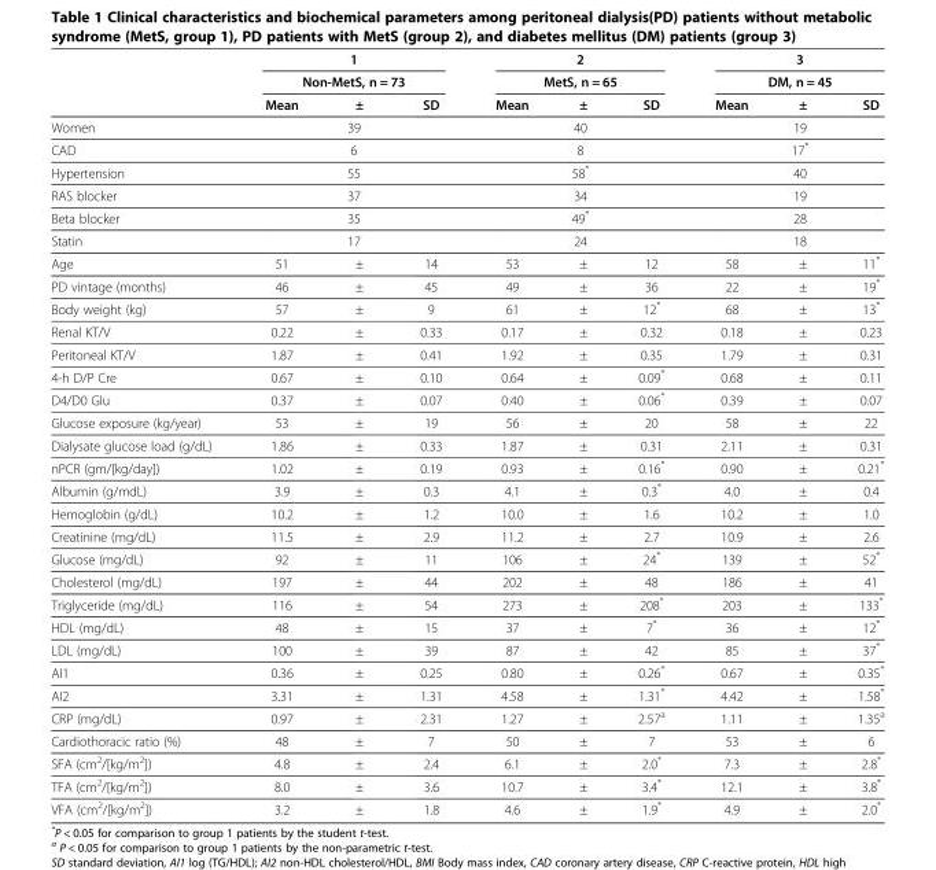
<table><thead><tr><td rowspan="3"></td><td rowspan="2" colspan="3">1 Non-MetS, n = 73</td><td rowspan="2" colspan="3">2 MetS, n = 65</td><td rowspan="2" colspan="3">3 DM, n = 45</td></tr><tr></tr><tr><td>Mean</td><td>±</td><td>SD</td><td>Mean</td><td>±</td><td>SD</td><td>Mean</td><td>±</td><td>SD</td></tr></thead><tbody><tr><td>Women</td><td colspan="3">39</td><td colspan="3">40</td><td colspan="3">19</td></tr><tr><td>CAD</td><td colspan="3">6</td><td colspan="3">8</td><td colspan="3">17*</td></tr><tr><td>Hypertension</td><td colspan="3">55</td><td colspan="3">58*</td><td colspan="3">40</td></tr><tr><td>RAS blocker</td><td colspan="3">37</td><td colspan="3">34</td><td colspan="3">19</td></tr><tr><td>Beta blocker</td><td colspan="3">35</td><td colspan="3">49*</td><td colspan="3">28</td></tr><tr><td>Statin</td><td colspan="3">17</td><td colspan="3">24</td><td colspan="3">18</td></tr><tr><td>Age</td><td>51</td><td>±</td><td>14</td><td>53</td><td>±</td><td>12</td><td>58</td><td>±</td><td>11*</td></tr><tr><td>PD vintage (months)</td><td>46</td><td>±</td><td>45</td><td>49</td><td>±</td><td>36</td><td>22</td><td>±</td><td>19*</td></tr><tr><td>Body weight (kg)</td><td>57</td><td>±</td><td>9</td><td>61</td><td>±</td><td>12*</td><td>68</td><td>±</td><td>13*</td></tr><tr><td>Renal KT/V</td><td>0.22</td><td>±</td><td>0.33</td><td>0.17</td><td>±</td><td>0.32</td><td>0.18</td><td>±</td><td>0.23</td></tr><tr><td>Peritoneal KT/V</td><td>1.87</td><td>±</td><td>0.41</td><td>1.92</td><td>±</td><td>0.35</td><td>1.79</td><td>±</td><td>0.31</td></tr><tr><td>4-h D/P Cre</td><td>0.67</td><td>±</td><td>0.10</td><td>0.64</td><td>±</td><td>0.09*</td><td>0.68</td><td>±</td><td>0.11</td></tr><tr><td>D4/D0 Glu</td><td>0.37</td><td>±</td><td>0.07</td><td>0.40</td><td>±</td><td>0.06*</td><td>0.39</td><td>±</td><td>0.07</td></tr><tr><td>Glucose exposure (kg/year)</td><td>53</td><td>±</td><td>19</td><td>56</td><td>±</td><td>20</td><td>58</td><td>±</td><td>22</td></tr><tr><td>Dialysate glucose load (g/dL)</td><td>1.86</td><td>±</td><td>0.33</td><td>1.87</td><td>±</td><td>0.31</td><td>2.11</td><td>±</td><td>0.31</td></tr><tr><td>nPCR (gm/[kg/day])</td><td>1.02</td><td>±</td><td>0.19</td><td>0.93</td><td>±</td><td>0.16*</td><td>0.90</td><td>±</td><td>0.21*</td></tr><tr><td>Albumin (g/mdL)</td><td>3.9</td><td>±</td><td>0.3</td><td>4.1</td><td>±</td><td>0.3*</td><td>4.0</td><td>±</td><td>0.4</td></tr><tr><td>Hemoglobin (g/dL)</td><td>10.2</td><td>±</td><td>1.2</td><td>10.0</td><td>±</td><td>1.6</td><td>10.2</td><td>±</td><td>1.0</td></tr><tr><td>Creatinine (mg/dL)</td><td>11.5</td><td>±</td><td>2.9</td><td>11.2</td><td>±</td><td>2.7</td><td>10.9</td><td>±</td><td>2.6</td></tr><tr><td>Glucose (mg/dL)</td><td>92</td><td>±</td><td>11</td><td>106</td><td>±</td><td>24*</td><td>139</td><td>±</td><td>52*</td></tr><tr><td>Cholesterol (mg/dL)</td><td>197</td><td>±</td><td>44</td><td>202</td><td>±</td><td>48</td><td>186</td><td>±</td><td>41</td></tr><tr><td>Triglyceride (mg/dL)</td><td>116</td><td>±</td><td>54</td><td>273</td><td>±</td><td>208*</td><td>203</td><td>±</td><td>133*</td></tr><tr><td>HDL (mg/dL)</td><td>48</td><td>±</td><td>15</td><td>37</td><td>±</td><td>7*</td><td>36</td><td>±</td><td>12*</td></tr><tr><td>LDL (mg/dL)</td><td>100</td><td>±</td><td>39</td><td>87</td><td>±</td><td>42</td><td>85</td><td>±</td><td>37*</td></tr><tr><td>AI1</td><td>0.36</td><td>±</td><td>0.25</td><td>0.80</td><td>±</td><td>0.26*</td><td>0.67</td><td>±</td><td>0.35*</td></tr><tr><td>AI2</td><td>3.31</td><td>±</td><td>1.31</td><td>4.58</td><td>±</td><td>1.31*</td><td>4.42</td><td>±</td><td>1.58*</td></tr><tr><td>CRP (mg/dL)</td><td>0.97</td><td>±</td><td>2.31</td><td>1.27</td><td>±</td><td>2.57<sup>a</sup></td><td>1.11</td><td>±</td><td>1.35<sup>a</sup></td></tr><tr><td>Cardiothoracic ratio (%)</td><td>48</td><td>±</td><td>7</td><td>50</td><td>±</td><td>7</td><td>53</td><td>±</td><td>6</td></tr><tr><td>SFA (cm<sup>2</sup>/[kg/m<sup>2</sup>])</td><td>4.8</td><td>±</td><td>2.4</td><td>6.1</td><td>±</td><td>2.0*</td><td>7.3</td><td>±</td><td>2.8*</td></tr><tr><td>TFA (cm<sup>2</sup>/[kg/m<sup>2</sup>])</td><td>8.0</td><td>±</td><td>3.6</td><td>10.7</td><td>±</td><td>3.4*</td><td>12.1</td><td>±</td><td>3.8*</td></tr><tr><td>VFA (cm<sup>2</sup>/[kg/m<sup>2</sup>])</td><td>3.2</td><td>±</td><td>1.8</td><td>4.6</td><td>±</td><td>1.9*</td><td>4.9</td><td>±</td><td>2.0*</td></tr></tbody></table>